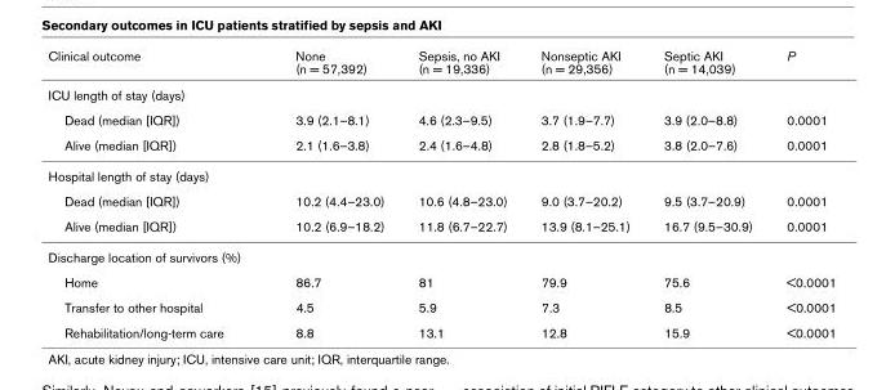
<table><thead><tr><td>Clinical outcome</td><td>None (n = 57,392)</td><td>Sepsis, no AKI (n = 19,336)</td><td>Nonseptic AKI (n = 29,356)</td><td>Septic AKI (n = 14,039)</td><td>P</td></tr></thead><tbody><tr><td colspan="6">ICU length of stay (days)</td></tr><tr><td>Dead (median [IQR])</td><td>3.9 (2.1–8.1)</td><td>4.6 (2.3–9.5)</td><td>3.7 (1.9–7.7)</td><td>3.9 (2.0–8.8)</td><td>0.0001</td></tr><tr><td>Alive (median [IQR])</td><td>2.1 (1.6–3.8)</td><td>2.4 (1.6–4.8)</td><td>2.8 (1.8–5.2)</td><td>3.8 (2.0–7.6)</td><td>0.0001</td></tr><tr><td colspan="6">Hospital length of stay (days)</td></tr><tr><td>Dead (median [IQR])</td><td>10.2 (4.4–23.0)</td><td>10.6 (4.8–23.0)</td><td>9.0 (3.7–20.2)</td><td>9.5 (3.7–20.9)</td><td>0.0001</td></tr><tr><td>Alive (median [IQR])</td><td>10.2 (6.9–18.2)</td><td>11.8 (6.7–22.7)</td><td>13.9 (8.1–25.1)</td><td>16.7 (9.5–30.9)</td><td>0.0001</td></tr><tr><td colspan="6">Discharge location of survivors (%)</td></tr><tr><td>Home</td><td>86.7</td><td>81</td><td>79.9</td><td>75.6</td><td>&lt;0.0001</td></tr><tr><td>Transfer to other hospital</td><td>4.5</td><td>5.9</td><td>7.3</td><td>8.5</td><td>&lt;0.0001</td></tr><tr><td>Rehabilitation/long-term care</td><td>8.8</td><td>13.1</td><td>12.8</td><td>15.9</td><td>&lt;0.0001</td></tr></tbody></table>